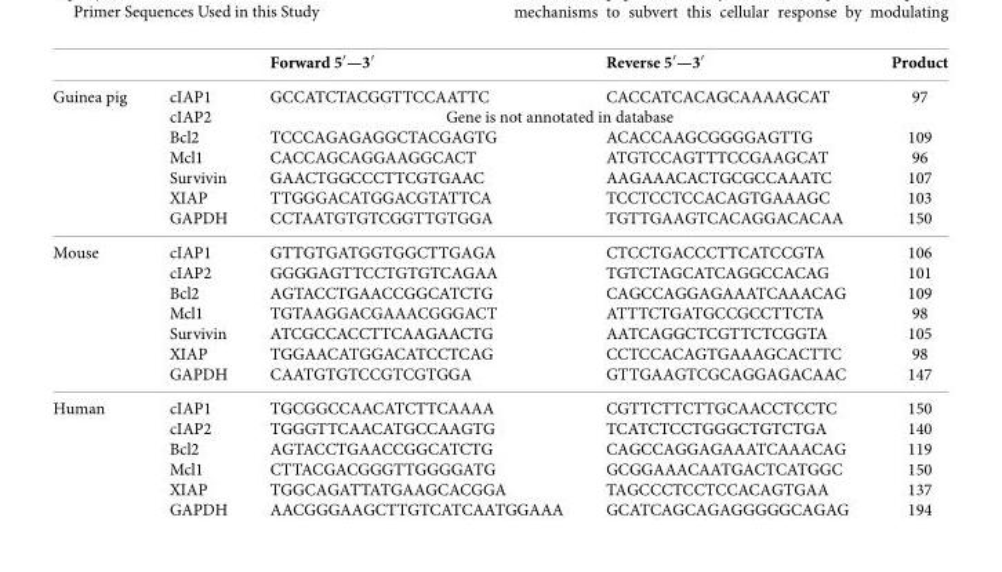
<table><thead><tr><td></td><td></td><td>Forward 5′—3′</td><td>Reverse 5′—3′</td><td>Product</td></tr></thead><tbody><tr><td rowspan="7">Guinea pig</td><td>cIAP1</td><td>GCCATCTACGGTTCCAATTC</td><td>CACCATCACAGCAAAAGCAT</td><td>97</td></tr><tr><td>cIAP2</td><td colspan="2">Gene is not annotated in database</td><td></td></tr><tr><td>Bcl2</td><td>TCCCAGAGAGGCTACGAGTG</td><td>ACACCAAGCGGGGAGTTG</td><td>109</td></tr><tr><td>Mcl1</td><td>CACCAGCAGGAAGGCACT</td><td>ATGTCCAGTTTCCGAAGCAT</td><td>96</td></tr><tr><td>Survivin</td><td>GAACTGGCCCTTCGTGAAC</td><td>AAGAAACACTGCGCCAAATC</td><td>107</td></tr><tr><td>XIAP</td><td>TTGGGACATGGACGTATTCA</td><td>TCCTCCTCCACAGTGAAAGC</td><td>103</td></tr><tr><td>GAPDH</td><td>CCTAATGTGTCGGTTGTGGA</td><td>TGTTGAAGTCACAGGACACAA</td><td>150</td></tr><tr><td rowspan="7">Mouse</td><td>cIAP1</td><td>GTTGTGATGGTGGCTTGAGA</td><td>CTCCTGACCCTTCATCCGTA</td><td>106</td></tr><tr><td>cIAP2</td><td>GGGGAGTTCCTGTGTCAGAA</td><td>TGTCTAGCATCAGGCCACAG</td><td>101</td></tr><tr><td>Bcl2</td><td>AGTACCTGAACCGGCATCTG</td><td>CAGCCAGGAGAAATCAAACAG</td><td>109</td></tr><tr><td>Mcl1</td><td>TGTAAGGACGAAACGGGACT</td><td>ATTTCTGATGCCGCCTTCTA</td><td>98</td></tr><tr><td>Survivin</td><td>ATCGCCACCTTCAAGAACTG</td><td>AATCAGGCTCGTTCTCGGTA</td><td>105</td></tr><tr><td>XIAP</td><td>TGGAACATGGACATCCTCAG</td><td>CCTCCACAGTGAAAGCACTTC</td><td>98</td></tr><tr><td>GAPDH</td><td>CAATGTGTCCGTCGTGGA</td><td>GTTGAAGTCGCAGGAGACAAC</td><td>147</td></tr><tr><td rowspan="6">Human</td><td>cIAP1</td><td>TGCGGCCAACATCTTCAAAA</td><td>CGTTCTTCTTGCAACCTCCTC</td><td>150</td></tr><tr><td>cIAP2</td><td>TGGGTTCAACATGCCAAGTG</td><td>TCATCTCCTGGGCTGTCTGA</td><td>140</td></tr><tr><td>Bcl2</td><td>AGTACCTGAACCGGCATCTG</td><td>CAGCCAGGAGAAATCAAACAG</td><td>119</td></tr><tr><td>Mcl1</td><td>CTTACGACGGGTTGGGGATG</td><td>GCGGAAACAATGACTCATGGC</td><td>150</td></tr><tr><td>XIAP</td><td>TGGCAGATTATGAAGCACGGA</td><td>TAGCCCTCCTCCACAGTGAA</td><td>137</td></tr><tr><td>GAPDH</td><td>AACGGGAAGCTTGTCATCAATGGAAA</td><td>GCATCAGCAGAGGGGGCAGAG</td><td>194</td></tr></tbody></table>